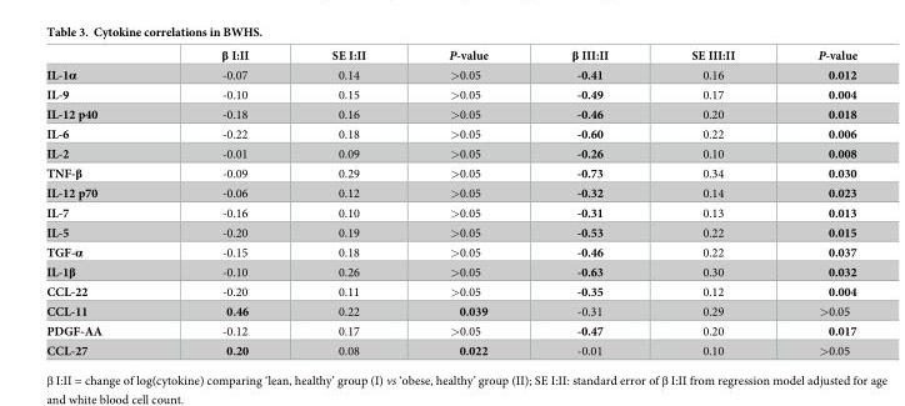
<table><thead><tr><td></td><td>β I:II</td><td>SE I:II</td><td>P-value</td><td>β III:II</td><td>SE III:II</td><td>P-value</td></tr></thead><tbody><tr><td>IL-1α</td><td>-0.07</td><td>0.14</td><td>&gt;0.05</td><td>-0.41</td><td>0.16</td><td>0.012</td></tr><tr><td>IL-9</td><td>-0.10</td><td>0.15</td><td>&gt;0.05</td><td>-0.49</td><td>0.17</td><td>0.004</td></tr><tr><td>IL-12 p40</td><td>-0.18</td><td>0.16</td><td>&gt;0.05</td><td>-0.46</td><td>0.20</td><td>0.018</td></tr><tr><td>IL-6</td><td>-0.22</td><td>0.18</td><td>&gt;0.05</td><td>-0.60</td><td>0.22</td><td>0.006</td></tr><tr><td>IL-2</td><td>-0.01</td><td>0.09</td><td>&gt;0.05</td><td>-0.26</td><td>0.10</td><td>0.008</td></tr><tr><td>TNF-β</td><td>-0.09</td><td>0.29</td><td>&gt;0.05</td><td>-0.73</td><td>0.34</td><td>0.030</td></tr><tr><td>IL-12 p70</td><td>-0.06</td><td>0.12</td><td>&gt;0.05</td><td>-0.32</td><td>0.14</td><td>0.023</td></tr><tr><td>IL-7</td><td>-0.16</td><td>0.10</td><td>&gt;0.05</td><td>-0.31</td><td>0.13</td><td>0.013</td></tr><tr><td>IL-5</td><td>-0.20</td><td>0.19</td><td>&gt;0.05</td><td>-0.53</td><td>0.22</td><td>0.015</td></tr><tr><td>TGF-α</td><td>-0.15</td><td>0.18</td><td>&gt;0.05</td><td>-0.46</td><td>0.22</td><td>0.037</td></tr><tr><td>IL-1β</td><td>-0.10</td><td>0.26</td><td>&gt;0.05</td><td>-0.63</td><td>0.30</td><td>0.032</td></tr><tr><td>CCL-22</td><td>-0.20</td><td>0.11</td><td>&gt;0.05</td><td>-0.35</td><td>0.12</td><td>0.004</td></tr><tr><td>CCL-11</td><td>0.46</td><td>0.22</td><td>0.039</td><td>-0.31</td><td>0.29</td><td>&gt;0.05</td></tr><tr><td>PDGF-AA</td><td>-0.12</td><td>0.17</td><td>&gt;0.05</td><td>-0.47</td><td>0.20</td><td>0.017</td></tr><tr><td>CCL-27</td><td>0.20</td><td>0.08</td><td>0.022</td><td>-0.01</td><td>0.10</td><td>&gt;0.05</td></tr></tbody></table>